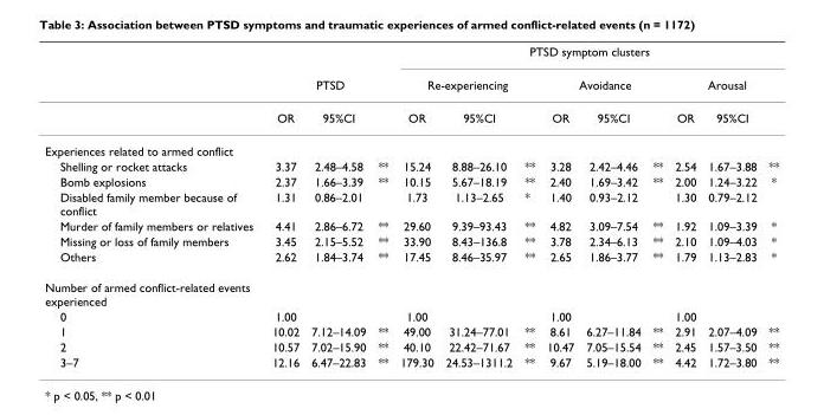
<table><thead><tr><td rowspan="3"></td><td></td><td></td><td></td><td colspan="9">PTSD symptom clusters</td></tr><tr><td colspan="3">PTSD</td><td colspan="3">Re-experiencing</td><td colspan="3">Avoidance</td><td colspan="3">Arousal</td></tr><tr><td>OR</td><td>95%CI</td><td></td><td>OR</td><td>95%CI</td><td></td><td>OR</td><td>95%CI</td><td></td><td>OR</td><td>95%CI</td><td></td></tr></thead><tbody><tr><td colspan="13">Experiences related to armed conflict</td></tr><tr><td>Shelling or rocket attacks</td><td>3.37</td><td>2.48–4.58</td><td>**</td><td>15.24</td><td>8.88–26.10</td><td>**</td><td>3.28</td><td>2.42–4.46</td><td>**</td><td>2.54</td><td>1.67–3.88</td><td>**</td></tr><tr><td>Bomb explosions</td><td>2.37</td><td>1.66–3.39</td><td>**</td><td>10.15</td><td>5.67–18.19</td><td>**</td><td>2.40</td><td>1.69–3.42</td><td>**</td><td>2.00</td><td>1.24–3.22</td><td>*</td></tr><tr><td>Disabled family member because of conflict</td><td>1.31</td><td>0.86–2.01</td><td></td><td>1.73</td><td>1.13–2.65</td><td>*</td><td>1.40</td><td>0.93–2.12</td><td></td><td>1.30</td><td>0.79–2.12</td><td></td></tr><tr><td>Murder of family members or relatives</td><td>4.41</td><td>2.86–6.72</td><td>**</td><td>29.60</td><td>9.39–93.43</td><td>**</td><td>4.82</td><td>3.09–7.54</td><td>**</td><td>1.92</td><td>1.09–3.39</td><td>*</td></tr><tr><td>Missing or loss of family members</td><td>3.45</td><td>2.15–5.52</td><td>**</td><td>33.90</td><td>8.43–136.8</td><td>**</td><td>3.78</td><td>2.34–6.13</td><td>**</td><td>2.10</td><td>1.09–4.03</td><td>*</td></tr><tr><td>Others</td><td>2.62</td><td>1.84–3.74</td><td>**</td><td>17.45</td><td>8.46–35.97</td><td>**</td><td>2.65</td><td>1.86–3.77</td><td>**</td><td>1.79</td><td>1.13–2.83</td><td>*</td></tr><tr><td colspan="13">Number of armed conflict-related events experienced</td></tr><tr><td>0</td><td>1.00</td><td></td><td></td><td>1.00</td><td></td><td></td><td>1.00</td><td></td><td></td><td>1.00</td><td></td><td></td></tr><tr><td>1</td><td>10.02</td><td>7.12–14.09</td><td>**</td><td>49.00</td><td>31.24–77.01</td><td>**</td><td>8.61</td><td>6.27–11.84</td><td>**</td><td>2.91</td><td>2.07–4.09</td><td>**</td></tr><tr><td>2</td><td>10.57</td><td>7.02–15.90</td><td>**</td><td>40.10</td><td>22.42–71.67</td><td>**</td><td>10.47</td><td>7.05–15.54</td><td>**</td><td>2.45</td><td>1.57–3.50</td><td>**</td></tr><tr><td>3–7</td><td>12.16</td><td>6.47–22.83</td><td>**</td><td>179.30</td><td>24.53–1311.2</td><td>**</td><td>9.67</td><td>5.19–18.00</td><td>**</td><td>4.42</td><td>1.72–3.80</td><td>**</td></tr></tbody></table>